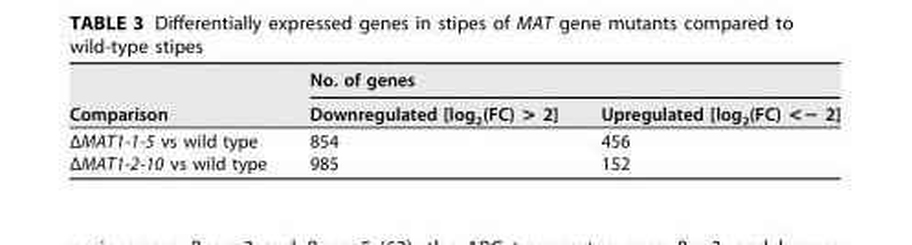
<table><thead><tr><td rowspan="2">Comparison</td><td colspan="2">No. of genes</td></tr><tr><td>Downregulated [log<sub>2</sub>(FC) &gt; 2]</td><td>Upregulated [log<sub>2</sub>(FC) &lt;− 2]</td></tr></thead><tbody><tr><td>ΔMAT1-1-5 vs wild type</td><td>854</td><td>456</td></tr><tr><td>ΔMAT1-2-10 vs wild type</td><td>985</td><td>152</td></tr></tbody></table>